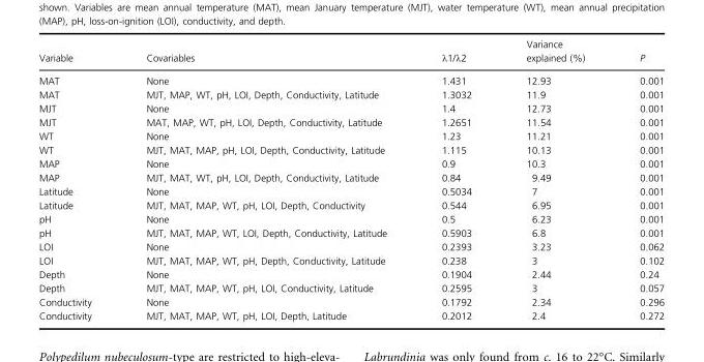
<table><thead><tr><td>Variable</td><td>Covariables</td><td>λ1/λ2</td><td>Variance explained (%)</td><td>P</td></tr></thead><tbody><tr><td>MAT</td><td>None</td><td>1.431</td><td>12.93</td><td>0.001</td></tr><tr><td>MAT</td><td>MJT, MAP, WT, pH, LOI, Depth, Conductivity, Latitude</td><td>1.3032</td><td>11.9</td><td>0.001</td></tr><tr><td>MJT</td><td>None</td><td>1.4</td><td>12.73</td><td>0.001</td></tr><tr><td>MJT</td><td>MAT, MAP, WT, pH, LOI, Depth, Conductivity, Latitude</td><td>1.2651</td><td>11.54</td><td>0.001</td></tr><tr><td>WT</td><td>None</td><td>1.23</td><td>11.21</td><td>0.001</td></tr><tr><td>WT</td><td>MJT, MAT, MAP, pH, LOI, Depth, Conductivity, Latitude</td><td>1.115</td><td>10.13</td><td>0.001</td></tr><tr><td>MAP</td><td>None</td><td>0.9</td><td>10.3</td><td>0.001</td></tr><tr><td>MAP</td><td>MJT, MAT, WT, pH, LOI, Depth, Conductivity, Latitude</td><td>0.84</td><td>9.49</td><td>0.001</td></tr><tr><td>Latitude</td><td>None</td><td>0.5034</td><td>7</td><td>0.001</td></tr><tr><td>Latitude</td><td>MJT, MAT, MAP, WT, pH, LOI, Depth, Conductivity</td><td>0.544</td><td>6.95</td><td>0.001</td></tr><tr><td>pH</td><td>None</td><td>0.5</td><td>6.23</td><td>0.001</td></tr><tr><td>pH</td><td>MJT, MAT, MAP, WT, LOI, Depth, Conductivity, Latitude</td><td>0.5903</td><td>6.8</td><td>0.001</td></tr><tr><td>LOI</td><td>None</td><td>0.2393</td><td>3.23</td><td>0.062</td></tr><tr><td>LOI</td><td>MJT, MAT, MAP, WT, pH, Depth, Conductivity, Latitude</td><td>0.238</td><td>3</td><td>0.102</td></tr><tr><td>Depth</td><td>None</td><td>0.1904</td><td>2.44</td><td>0.24</td></tr><tr><td>Depth</td><td>MJT, MAT, MAP, WT, pH, LOI, Conductivity, Latitude</td><td>0.2595</td><td>3</td><td>0.057</td></tr><tr><td>Conductivity</td><td>None</td><td>0.1792</td><td>2.34</td><td>0.296</td></tr><tr><td>Conductivity</td><td>MJT, MAT, MAP, WT, pH, LOI, Depth, Latitude</td><td>0.2012</td><td>2.4</td><td>0.272</td></tr></tbody></table>